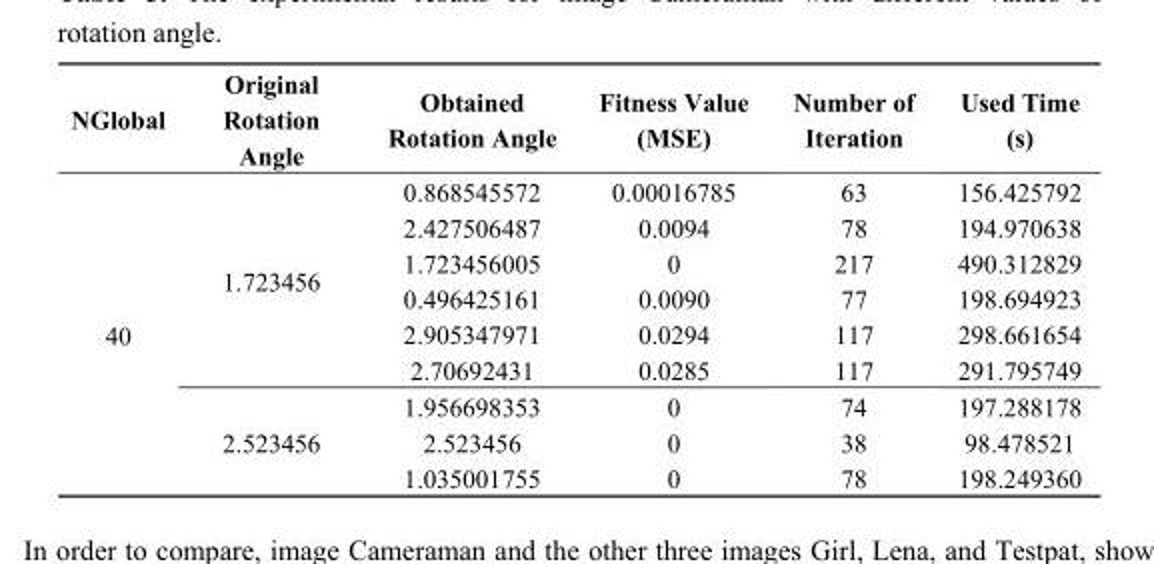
<table><thead><tr><td>NGlobal</td><td>Original Rotation Angle</td><td>Obtained Rotation Angle</td><td>Fitness Value (MSE)</td><td>Number of Iteration</td><td>Used Time (s)</td></tr></thead><tbody><tr><td rowspan="9">40</td><td rowspan="6">1.723456</td><td>0.868545572</td><td>0.00016785</td><td>63</td><td>156.425792</td></tr><tr><td>2.427506487</td><td>0.0094</td><td>78</td><td>194.970638</td></tr><tr><td>1.723456005</td><td>0</td><td>217</td><td>490.312829</td></tr><tr><td>0.496425161</td><td>0.0090</td><td>77</td><td>198.694923</td></tr><tr><td>2.905347971</td><td>0.0294</td><td>117</td><td>298.661654</td></tr><tr><td>2.70692431</td><td>0.0285</td><td>117</td><td>291.795749</td></tr><tr><td rowspan="3">2.523456</td><td>1.956698353</td><td>0</td><td>74</td><td>197.288178</td></tr><tr><td>2.523456</td><td>0</td><td>38</td><td>98.478521</td></tr><tr><td>1.035001755</td><td>0</td><td>78</td><td>198.249360</td></tr></tbody></table>